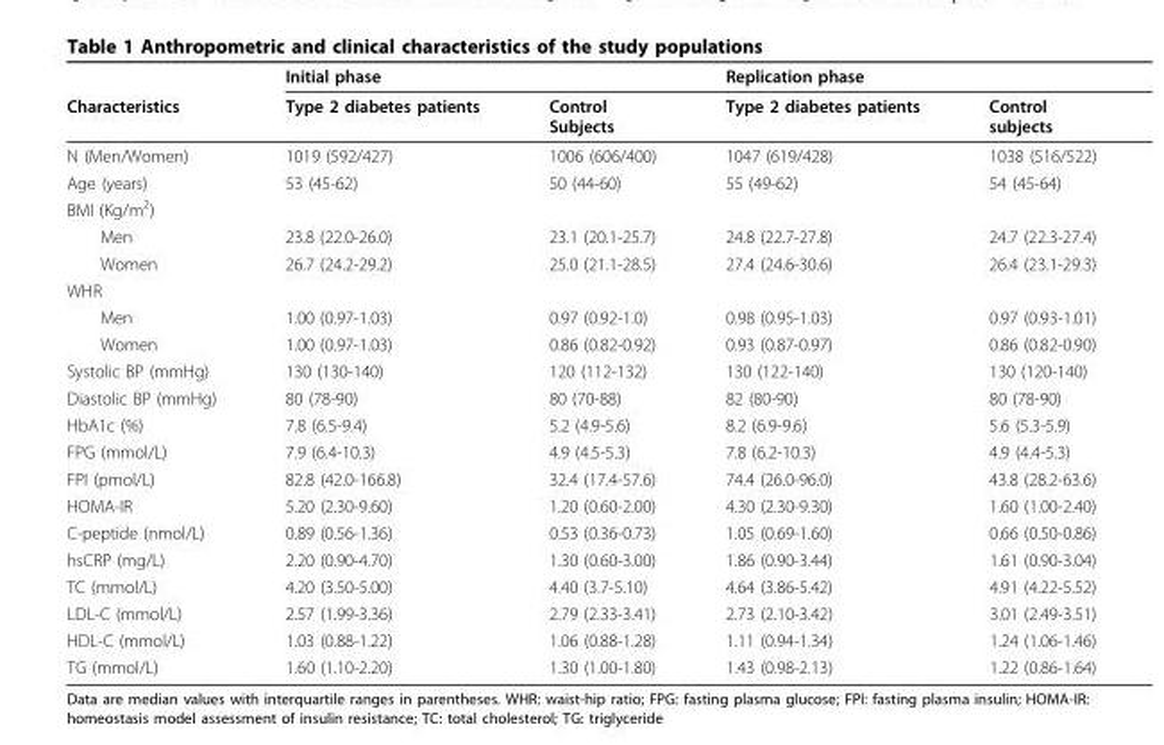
<table><thead><tr><td rowspan="2">Characteristics</td><td rowspan="2">Initial phase Type 2 diabetes patients</td><td rowspan="2">Control Subjects</td><td rowspan="2">Replication phase Type 2 diabetes patients</td><td rowspan="2">Control subjects</td></tr><tr></tr></thead><tbody><tr><td>N (Men/Women)</td><td>1019 (592/427)</td><td>1006 (606/400)</td><td>1047 (619/428)</td><td>1038 (516/522)</td></tr><tr><td>Age (years)</td><td>53 (45-62)</td><td>50 (44-60)</td><td>55 (49-62)</td><td>54 (45-64)</td></tr><tr><td colspan="5">BMI (Kg/m<sup>2</sup>)</td></tr><tr><td>Men</td><td>23.8 (22.0-26.0)</td><td>23.1 (20.1-25.7)</td><td>24.8 (22.7-27.8)</td><td>24.7 (22.3-27.4)</td></tr><tr><td>Women</td><td>26.7 (24.2-29.2)</td><td>25.0 (21.1-28.5)</td><td>27.4 (24.6-30.6)</td><td>26.4 (23.1-29.3)</td></tr><tr><td colspan="5">WHR</td></tr><tr><td>Men</td><td>1.00 (0.97-1.03)</td><td>0.97 (0.92-1.0)</td><td>0.98 (0.95-1.03)</td><td>0.97 (0.93-1.01)</td></tr><tr><td>Women</td><td>1.00 (0.97-1.03)</td><td>0.86 (0.82-0.92)</td><td>0.93 (0.87-0.97)</td><td>0.86 (0.82-0.90)</td></tr><tr><td>Systolic BP (mmHg)</td><td>130 (130-140)</td><td>120 (112-132)</td><td>130 (122-140)</td><td>130 (120-140)</td></tr><tr><td>Diastolic BP (mmHg)</td><td>80 (78-90)</td><td>80 (70-88)</td><td>82 (80-90)</td><td>80 (78-90)</td></tr><tr><td>HbA1c (%)</td><td>7.8 (6.5-9.4)</td><td>5.2 (4.9-5.6)</td><td>8.2 (6.9-9.6)</td><td>5.6 (5.3-5.9)</td></tr><tr><td>FPG (mmol/L)</td><td>7.9 (6.4-10.3)</td><td>4.9 (4.5-5.3)</td><td>7.8 (6.2-10.3)</td><td>4.9 (4.4-5.3)</td></tr><tr><td>FPI (pmol/L)</td><td>82.8 (42.0-166.8)</td><td>32.4 (17.4-57.6)</td><td>74.4 (26.0-96.0)</td><td>43.8 (28.2-63.6)</td></tr><tr><td>HOMA-IR</td><td>5.20 (2.30-9.60)</td><td>1.20 (0.60-2.00)</td><td>4.30 (2.30-9.30)</td><td>1.60 (1.00-2.40)</td></tr><tr><td>C-peptide (nmol/L)</td><td>0.89 (0.56-1.36)</td><td>0.53 (0.36-0.73)</td><td>1.05 (0.69-1.60)</td><td>0.66 (0.50-0.86)</td></tr><tr><td>hsCRP (mg/L)</td><td>2.20 (0.90-4.70)</td><td>1.30 (0.60-3.00)</td><td>1.86 (0.90-3.44)</td><td>1.61 (0.90-3.04)</td></tr><tr><td>TC (mmol/L)</td><td>4.20 (3.50-5.00)</td><td>4.40 (3.7-5.10)</td><td>4.64 (3.86-5.42)</td><td>4.91 (4.22-5.52)</td></tr><tr><td>LDL-C (mmol/L)</td><td>2.57 (1.99-3.36)</td><td>2.79 (2.33-3.41)</td><td>2.73 (2.10-3.42)</td><td>3.01 (2.49-3.51)</td></tr><tr><td>HDL-C (mmol/L)</td><td>1.03 (0.88-1.22)</td><td>1.06 (0.88-1.28)</td><td>1.11 (0.94-1.34)</td><td>1.24 (1.06-1.46)</td></tr><tr><td>TG (mmol/L)</td><td>1.60 (1.10-2.20)</td><td>1.30 (1.00-1.80)</td><td>1.43 (0.98-2.13)</td><td>1.22 (0.86-1.64)</td></tr></tbody></table>